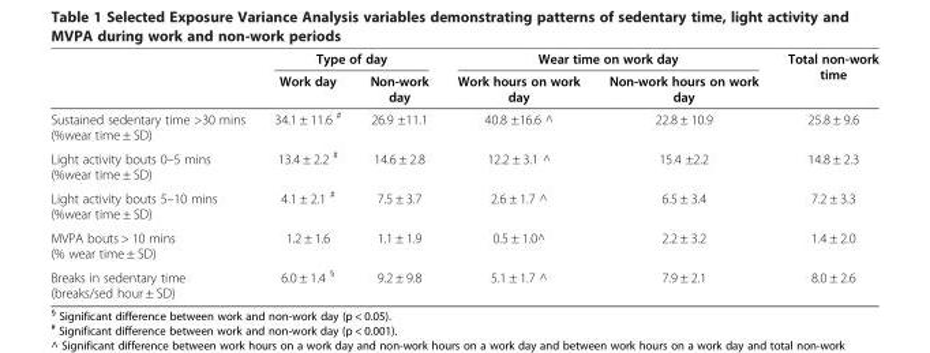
<table><thead><tr><td rowspan="2"></td><td colspan="2">Type of day</td><td colspan="2">Wear time on work day</td><td rowspan="2">Total non-work time</td></tr><tr><td>Work day</td><td>Non-work day</td><td>Work hours on work day</td><td>Non-work hours on work day</td></tr></thead><tbody><tr><td>Sustained sedentary time &gt;30 mins (%wear time ± SD)</td><td>34.1 ± 11.6 <sup>#</sup></td><td>26.9 ±11.1</td><td>40.8 ±16.6 ^</td><td>22.8 ± 10.9</td><td>25.8 ± 9.6</td></tr><tr><td>Light activity bouts 0–5 mins (%wear time ± SD)</td><td>13.4 ± 2.2 <sup>#</sup></td><td>14.6 ± 2.8</td><td>12.2 ± 3.1 ^</td><td>15.4 ±2.2</td><td>14.8 ± 2.3</td></tr><tr><td>Light activity bouts 5–10 mins (%wear time ± SD)</td><td>4.1 ± 2.1 <sup>#</sup></td><td>7.5 ± 3.7</td><td>2.6 ± 1.7 ^</td><td>6.5 ± 3.4</td><td>7.2 ± 3.3</td></tr><tr><td>MVPA bouts &gt; 10 mins (% wear time ± SD)</td><td>1.2 ± 1.6</td><td>1.1 ± 1.9</td><td>0.5 ± 1.0^</td><td>2.2 ± 3.2</td><td>1.4 ± 2.0</td></tr><tr><td>Breaks in sedentary time (breaks/sed hour ± SD)</td><td>6.0 ± 1.4 <sup>§</sup></td><td>9.2 ± 9.8</td><td>5.1 ± 1.7 ^</td><td>7.9 ± 2.1</td><td>8.0 ± 2.6</td></tr></tbody></table>